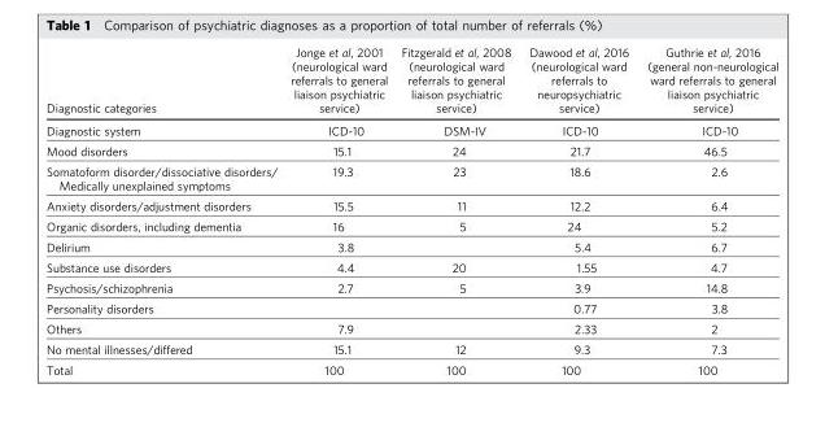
<table><thead><tr><td>Diagnostic categories</td><td>Jonge et al, 2001 (neurological ward referrals to general liaison psychiatric service)</td><td>Fitzgerald et al, 2008 (neurological ward referrals to general liaison psychiatric service)</td><td>Dawood et al, 2016 (neurological ward referrals to neuropsychiatric service)</td><td>Guthrie et al, 2016 (general non-neurological ward referrals to general liaison psychiatric service)</td></tr></thead><tbody><tr><td>Diagnostic system</td><td>ICD-10</td><td>DSM-IV</td><td>ICD-10</td><td>ICD-10</td></tr><tr><td>Mood disorders</td><td>15.1</td><td>24</td><td>21.7</td><td>46.5</td></tr><tr><td>Somatoform disorder/dissociative disorders/ Medically unexplained symptoms</td><td>19.3</td><td>23</td><td>18.6</td><td>2.6</td></tr><tr><td>Anxiety disorders/adjustment disorders</td><td>15.5</td><td>11</td><td>12.2</td><td>6.4</td></tr><tr><td>Organic disorders, including dementia</td><td>16</td><td>5</td><td>24</td><td>5.2</td></tr><tr><td>Delirium</td><td>3.8</td><td></td><td>5.4</td><td>6.7</td></tr><tr><td>Substance use disorders</td><td>4.4</td><td>20</td><td>1.55</td><td>4.7</td></tr><tr><td>Psychosis/schizophrenia</td><td>2.7</td><td>5</td><td>3.9</td><td>14.8</td></tr><tr><td>Personality disorders</td><td></td><td></td><td>0.77</td><td>3.8</td></tr><tr><td>Others</td><td>7.9</td><td></td><td>2.33</td><td>2</td></tr><tr><td>No mental illnesses/differed</td><td>15.1</td><td>12</td><td>9.3</td><td>7.3</td></tr><tr><td>Total</td><td>100</td><td>100</td><td>100</td><td>100</td></tr></tbody></table>